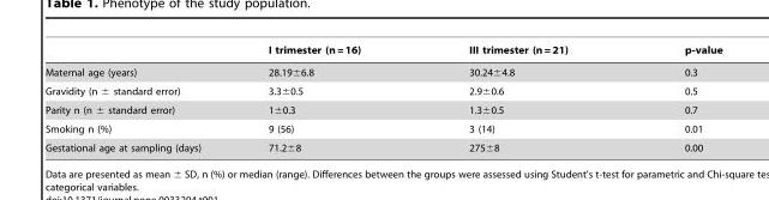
<table><thead><tr><td></td><td>I trimester (n = 16)</td><td>III trimester (n = 21)</td><td>p-value</td></tr></thead><tbody><tr><td>Maternal age (years)</td><td>28.19±6.8</td><td>30.24±4.8</td><td>0.3</td></tr><tr><td>Gravidity (n ± standard error)</td><td>3.3±0.5</td><td>2.9±0.6</td><td>0.5</td></tr><tr><td>Parity n (n ± standard error)</td><td>1±0.3</td><td>1.3±0.5</td><td>0.7</td></tr><tr><td>Smoking n (%)</td><td>9 (56)</td><td>3 (14)</td><td>0.01</td></tr><tr><td>Gestational age at sampling (days)</td><td>71.2±8</td><td>275±8</td><td>0.00</td></tr></tbody></table>